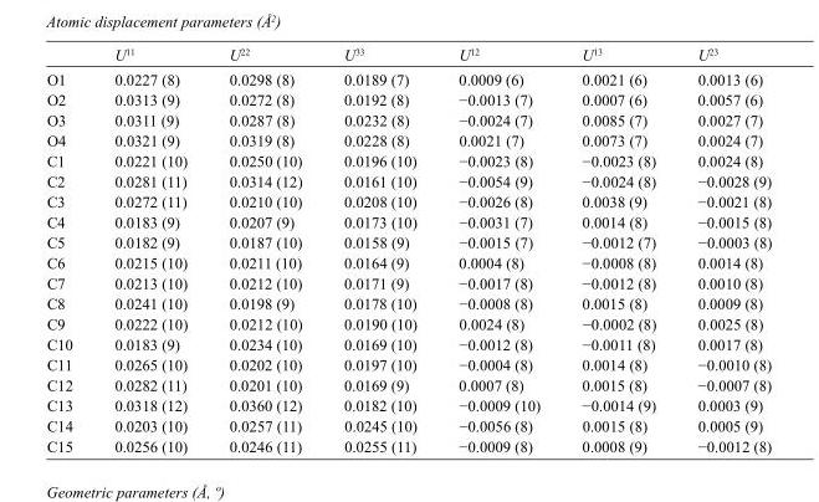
<table><thead><tr><td></td><td>U<sup>11</sup></td><td>U<sup>22</sup></td><td>U<sup>33</sup></td><td>U<sup>12</sup></td><td>U<sup>13</sup></td><td>U<sup>23</sup></td></tr></thead><tbody><tr><td>O1</td><td>0.0227 (8)</td><td>0.0298 (8)</td><td>0.0189 (7)</td><td>0.0009 (6)</td><td>0.0021 (6)</td><td>0.0013 (6)</td></tr><tr><td>O2</td><td>0.0313 (9)</td><td>0.0272 (8)</td><td>0.0192 (8)</td><td>−0.0013 (7)</td><td>0.0007 (6)</td><td>0.0057 (6)</td></tr><tr><td>O3</td><td>0.0311 (9)</td><td>0.0287 (8)</td><td>0.0232 (8)</td><td>−0.0024 (7)</td><td>0.0085 (7)</td><td>0.0027 (7)</td></tr><tr><td>O4</td><td>0.0321 (9)</td><td>0.0319 (8)</td><td>0.0228 (8)</td><td>0.0021 (7)</td><td>0.0073 (7)</td><td>0.0024 (7)</td></tr><tr><td>C1</td><td>0.0221 (10)</td><td>0.0250 (10)</td><td>0.0196 (10)</td><td>−0.0023 (8)</td><td>−0.0023 (8)</td><td>0.0024 (8)</td></tr><tr><td>C2</td><td>0.0281 (11)</td><td>0.0314 (12)</td><td>0.0161 (10)</td><td>−0.0054 (9)</td><td>−0.0024 (8)</td><td>−0.0028 (9)</td></tr><tr><td>C3</td><td>0.0272 (11)</td><td>0.0210 (10)</td><td>0.0208 (10)</td><td>−0.0026 (8)</td><td>0.0038 (9)</td><td>−0.0021 (8)</td></tr><tr><td>C4</td><td>0.0183 (9)</td><td>0.0207 (9)</td><td>0.0173 (10)</td><td>−0.0031 (7)</td><td>0.0014 (8)</td><td>−0.0015 (8)</td></tr><tr><td>C5</td><td>0.0182 (9)</td><td>0.0187 (10)</td><td>0.0158 (9)</td><td>−0.0015 (7)</td><td>−0.0012 (7)</td><td>−0.0003 (8)</td></tr><tr><td>C6</td><td>0.0215 (10)</td><td>0.0211 (10)</td><td>0.0164 (9)</td><td>0.0004 (8)</td><td>−0.0008 (8)</td><td>0.0014 (8)</td></tr><tr><td>C7</td><td>0.0213 (10)</td><td>0.0212 (10)</td><td>0.0171 (9)</td><td>−0.0017 (8)</td><td>−0.0012 (8)</td><td>0.0010 (8)</td></tr><tr><td>C8</td><td>0.0241 (10)</td><td>0.0198 (9)</td><td>0.0178 (10)</td><td>−0.0008 (8)</td><td>0.0015 (8)</td><td>0.0009 (8)</td></tr><tr><td>C9</td><td>0.0222 (10)</td><td>0.0212 (10)</td><td>0.0190 (10)</td><td>0.0024 (8)</td><td>−0.0002 (8)</td><td>0.0025 (8)</td></tr><tr><td>C10</td><td>0.0183 (9)</td><td>0.0234 (10)</td><td>0.0169 (10)</td><td>−0.0012 (8)</td><td>−0.0011 (8)</td><td>0.0017 (8)</td></tr><tr><td>C11</td><td>0.0265 (10)</td><td>0.0202 (10)</td><td>0.0197 (10)</td><td>−0.0004 (8)</td><td>0.0014 (8)</td><td>−0.0010 (8)</td></tr><tr><td>C12</td><td>0.0282 (11)</td><td>0.0201 (10)</td><td>0.0169 (9)</td><td>0.0007 (8)</td><td>0.0015 (8)</td><td>−0.0007 (8)</td></tr><tr><td>C13</td><td>0.0318 (12)</td><td>0.0360 (12)</td><td>0.0182 (10)</td><td>−0.0009 (10)</td><td>−0.0014 (9)</td><td>0.0003 (9)</td></tr><tr><td>C14</td><td>0.0203 (10)</td><td>0.0257 (11)</td><td>0.0245 (10)</td><td>−0.0056 (8)</td><td>0.0015 (8)</td><td>0.0005 (9)</td></tr><tr><td>C15</td><td>0.0256 (10)</td><td>0.0246 (11)</td><td>0.0255 (11)</td><td>−0.0009 (8)</td><td>0.0008 (9)</td><td>−0.0012 (8)</td></tr></tbody></table>